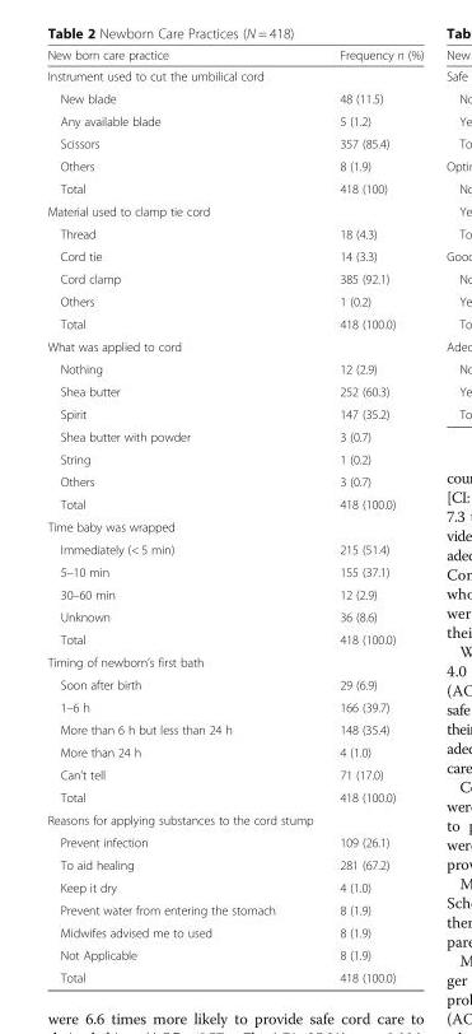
<table><thead><tr><td>New born care practice</td><td>Frequency n (%)</td></tr></thead><tbody><tr><td colspan="2">Instrument used to cut the umbilical cord</td></tr><tr><td>New blade</td><td>48 (11.5)</td></tr><tr><td>Any available blade</td><td>5 (1.2)</td></tr><tr><td>Scissors</td><td>357 (85.4)</td></tr><tr><td>Others</td><td>8 (1.9)</td></tr><tr><td>Total</td><td>418 (100)</td></tr><tr><td colspan="2">Material used to clamp tie cord</td></tr><tr><td>Thread</td><td>18 (4.3)</td></tr><tr><td>Cord tie</td><td>14 (3.3)</td></tr><tr><td>Cord clamp</td><td>385 (92.1)</td></tr><tr><td>Others</td><td>1 (0.2)</td></tr><tr><td>Total</td><td>418 (100.0)</td></tr><tr><td colspan="2">What was applied to cord</td></tr><tr><td>Nothing</td><td>12 (2.9)</td></tr><tr><td>Shea butter</td><td>252 (60.3)</td></tr><tr><td>Spirit</td><td>147 (35.2)</td></tr><tr><td>Shea butter with powder</td><td>3 (0.7)</td></tr><tr><td>String</td><td>1 (0.2)</td></tr><tr><td>Others</td><td>3 (0.7)</td></tr><tr><td>Total</td><td>418 (100.0)</td></tr><tr><td colspan="2">Time baby was wrapped</td></tr><tr><td>Immediately (&lt; 5 min)</td><td>215 (51.4)</td></tr><tr><td>5–10 min</td><td>155 (37.1)</td></tr><tr><td>30–60 min</td><td>12 (2.9)</td></tr><tr><td>Unknown</td><td>36 (8.6)</td></tr><tr><td>Total</td><td>418 (100.0)</td></tr><tr><td colspan="2">Timing of newborn’s first bath</td></tr><tr><td>Soon after birth</td><td>29 (6.9)</td></tr><tr><td>1–6 h</td><td>166 (39.7)</td></tr><tr><td>More than 6 h but less than 24 h</td><td>148 (35.4)</td></tr><tr><td>More than 24 h</td><td>4 (1.0)</td></tr><tr><td>Can’t tell</td><td>71 (17.0)</td></tr><tr><td>Total</td><td>418 (100.0)</td></tr><tr><td colspan="2">Reasons for applying substances to the cord stump</td></tr><tr><td>Prevent infection</td><td>109 (26.1)</td></tr><tr><td>To aid healing</td><td>281 (67.2)</td></tr><tr><td>Keep it dry</td><td>4 (1.0)</td></tr><tr><td>Prevent water from entering the stomach</td><td>8 (1.9)</td></tr><tr><td>Midwifes advised me to used</td><td>8 (1.9)</td></tr><tr><td>Not Applicable</td><td>8 (1.9)</td></tr><tr><td>Total</td><td>418 (100.0)</td></tr></tbody></table>